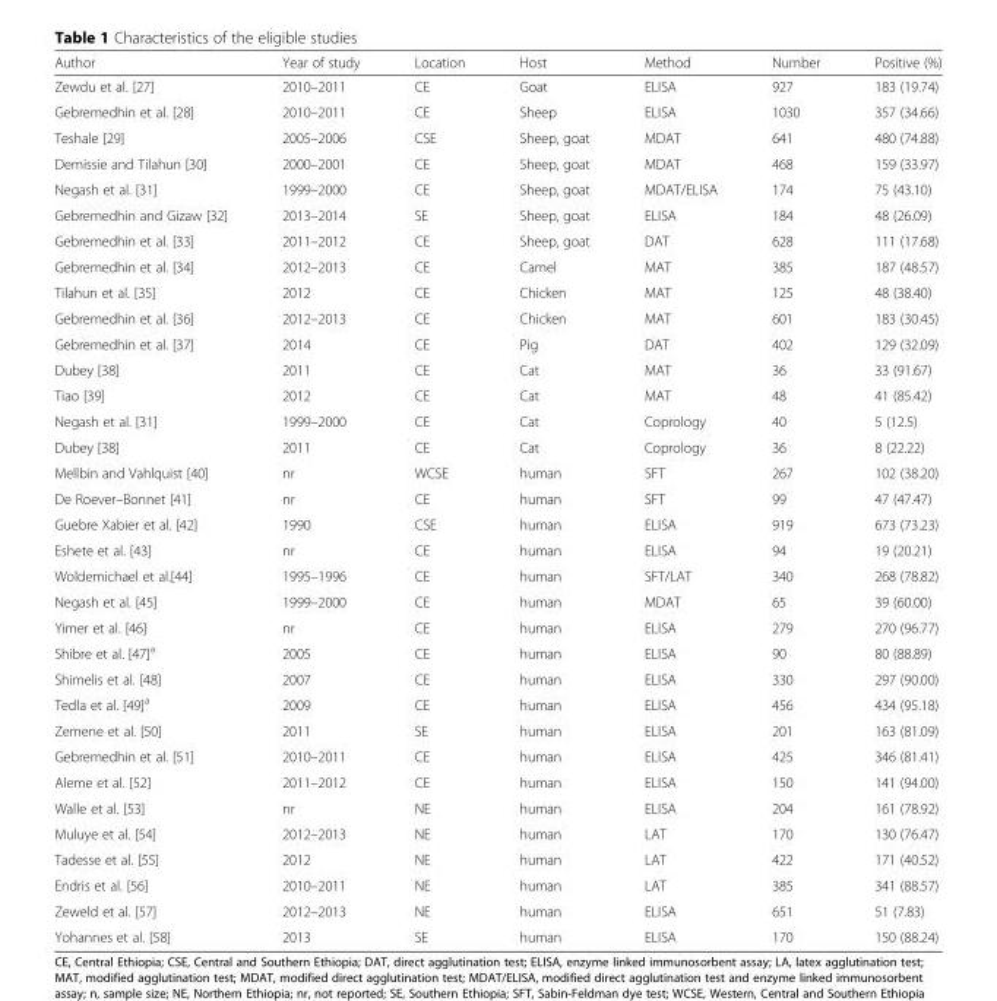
<table><thead><tr><td>Author</td><td>Year of study</td><td>Location</td><td>Host</td><td>Method</td><td>Number</td><td>Positive (%)</td></tr></thead><tbody><tr><td>Zewdu et al. [27]</td><td>2010–2011</td><td>CE</td><td>Goat</td><td>ELISA</td><td>927</td><td>183 (19.74)</td></tr><tr><td>Gebremedhin et al. [28]</td><td>2010–2011</td><td>CE</td><td>Sheep</td><td>ELISA</td><td>1030</td><td>357 (34.66)</td></tr><tr><td>Teshale [29]</td><td>2005–2006</td><td>CSE</td><td>Sheep, goat</td><td>MDAT</td><td>641</td><td>480 (74.88)</td></tr><tr><td>Demissie and Tilahun [30]</td><td>2000–2001</td><td>CE</td><td>Sheep, goat</td><td>MDAT</td><td>468</td><td>159 (33.97)</td></tr><tr><td>Negash et al. [31]</td><td>1999–2000</td><td>CE</td><td>Sheep, goat</td><td>MDAT/ELISA</td><td>174</td><td>75 (43.10)</td></tr><tr><td>Gebremedhin and Gizaw [32]</td><td>2013–2014</td><td>SE</td><td>Sheep, goat</td><td>ELISA</td><td>184</td><td>48 (26.09)</td></tr><tr><td>Gebremedhin et al. [33]</td><td>2011–2012</td><td>CE</td><td>Sheep, goat</td><td>DAT</td><td>628</td><td>111 (17.68)</td></tr><tr><td>Gebremedhin et al. [34]</td><td>2012–2013</td><td>CE</td><td>Camel</td><td>MAT</td><td>385</td><td>187 (48.57)</td></tr><tr><td>Tilahun et al. [35]</td><td>2012</td><td>CE</td><td>Chicken</td><td>MAT</td><td>125</td><td>48 (38.40)</td></tr><tr><td>Gebremedhin et al. [36]</td><td>2012–2013</td><td>CE</td><td>Chicken</td><td>MAT</td><td>601</td><td>183 (30.45)</td></tr><tr><td>Gebremedhin et al. [37]</td><td>2014</td><td>CE</td><td>Pig</td><td>DAT</td><td>402</td><td>129 (32.09)</td></tr><tr><td>Dubey [38]</td><td>2011</td><td>CE</td><td>Cat</td><td>MAT</td><td>36</td><td>33 (91.67)</td></tr><tr><td>Tiao [39]</td><td>2012</td><td>CE</td><td>Cat</td><td>MAT</td><td>48</td><td>41 (85.42)</td></tr><tr><td>Negash et al. [31]</td><td>1999–2000</td><td>CE</td><td>Cat</td><td>Coprology</td><td>40</td><td>5 (12.5)</td></tr><tr><td>Dubey [38]</td><td>2011</td><td>CE</td><td>Cat</td><td>Coprology</td><td>36</td><td>8 (22.22)</td></tr><tr><td>Mellbin and Vahlquist [40]</td><td>nr</td><td>WCSE</td><td>human</td><td>SFT</td><td>267</td><td>102 (38.20)</td></tr><tr><td>De Roever–Bonnet [41]</td><td>nr</td><td>CE</td><td>human</td><td>SFT</td><td>99</td><td>47 (47.47)</td></tr><tr><td>Guebre Xabier et al. [42]</td><td>1990</td><td>CSE</td><td>human</td><td>ELISA</td><td>919</td><td>673 (73.23)</td></tr><tr><td>Eshete et al. [43]</td><td>nr</td><td>CE</td><td>human</td><td>ELISA</td><td>94</td><td>19 (20.21)</td></tr><tr><td>Woldemichael et al.[44]</td><td>1995–1996</td><td>CE</td><td>human</td><td>SFT/LAT</td><td>340</td><td>268 (78.82)</td></tr><tr><td>Negash et al. [45]</td><td>1999–2000</td><td>CE</td><td>human</td><td>MDAT</td><td>65</td><td>39 (60.00)</td></tr><tr><td>Yimer et al. [46]</td><td>nr</td><td>CE</td><td>human</td><td>ELISA</td><td>279</td><td>270 (96.77)</td></tr><tr><td>Shibre et al. [47]<sup>a</sup></td><td>2005</td><td>CE</td><td>human</td><td>ELISA</td><td>90</td><td>80 (88.89)</td></tr><tr><td>Shimelis et al. [48]</td><td>2007</td><td>CE</td><td>human</td><td>ELISA</td><td>330</td><td>297 (90.00)</td></tr><tr><td>Tedla et al. [49]<sup>a</sup></td><td>2009</td><td>CE</td><td>human</td><td>ELISA</td><td>456</td><td>434 (95.18)</td></tr><tr><td>Zemene et al. [50]</td><td>2011</td><td>SE</td><td>human</td><td>ELISA</td><td>201</td><td>163 (81.09)</td></tr><tr><td>Gebremedhin et al. [51]</td><td>2010–2011</td><td>CE</td><td>human</td><td>ELISA</td><td>425</td><td>346 (81.41)</td></tr><tr><td>Aleme et al. [52]</td><td>2011–2012</td><td>CE</td><td>human</td><td>ELISA</td><td>150</td><td>141 (94.00)</td></tr><tr><td>Walle et al. [53]</td><td>nr</td><td>NE</td><td>human</td><td>ELISA</td><td>204</td><td>161 (78.92)</td></tr><tr><td>Muluye et al. [54]</td><td>2012–2013</td><td>NE</td><td>human</td><td>LAT</td><td>170</td><td>130 (76.47)</td></tr><tr><td>Tadesse et al. [55]</td><td>2012</td><td>NE</td><td>human</td><td>LAT</td><td>422</td><td>171 (40.52)</td></tr><tr><td>Endris et al. [56]</td><td>2010–2011</td><td>NE</td><td>human</td><td>LAT</td><td>385</td><td>341 (88.57)</td></tr><tr><td>Zeweld et al. [57]</td><td>2012–2013</td><td>NE</td><td>human</td><td>ELISA</td><td>651</td><td>51 (7.83)</td></tr><tr><td>Yohannes et al. [58]</td><td>2013</td><td>SE</td><td>human</td><td>ELISA</td><td>170</td><td>150 (88.24)</td></tr></tbody></table>